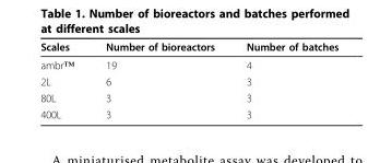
<table><thead><tr><td>Scales</td><td>Number of bioreactors</td><td>Number of batches</td></tr></thead><tbody><tr><td>ambr™</td><td>19</td><td>4</td></tr><tr><td>2L</td><td>6</td><td>3</td></tr><tr><td>80L</td><td>3</td><td>3</td></tr><tr><td>400L</td><td>3</td><td>3</td></tr></tbody></table>